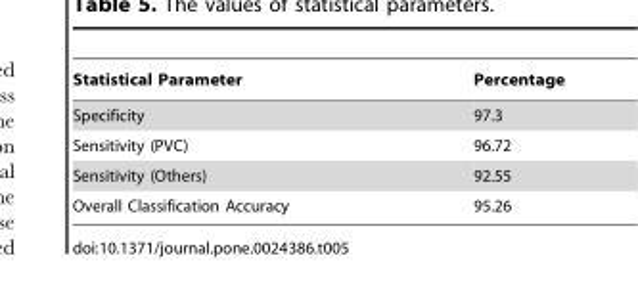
<table><thead><tr><td>Statistical Parameter</td><td>Percentage</td></tr></thead><tbody><tr><td>Specificity</td><td>97.3</td></tr><tr><td>Sensitivity (PVC)</td><td>96.72</td></tr><tr><td>Sensitivity (Others)</td><td>92.55</td></tr><tr><td>Overall Classification Accuracy</td><td>95.26</td></tr></tbody></table>